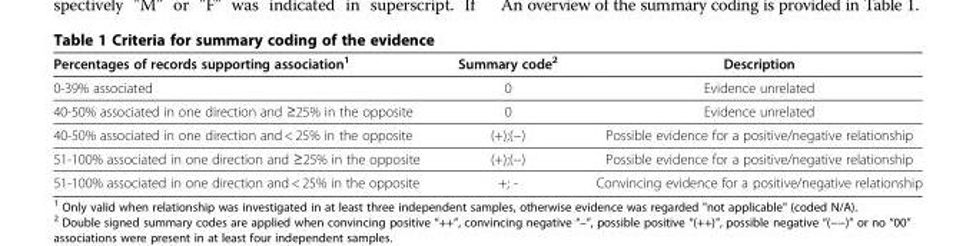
<table><thead><tr><td>Percentages of records supporting association<sup>1</sup></td><td>Summary code<sup>2</sup></td><td>Description</td></tr></thead><tbody><tr><td>0-39% associated</td><td>0</td><td>Evidence unrelated</td></tr><tr><td>40-50% associated in one direction and ≥25% in the opposite</td><td>0</td><td>Evidence unrelated</td></tr><tr><td>40-50% associated in one direction and &lt; 25% in the opposite</td><td>(+);(−)</td><td>Possible evidence for a positive/negative relationship</td></tr><tr><td>51-100% associated in one direction and ≥25% in the opposite</td><td>(+);(−)</td><td>Possible evidence for a positive/negative relationship</td></tr><tr><td>51-100% associated in one direction and &lt; 25% in the opposite</td><td>+; -</td><td>Convincing evidence for a positive/negative relationship</td></tr></tbody></table>